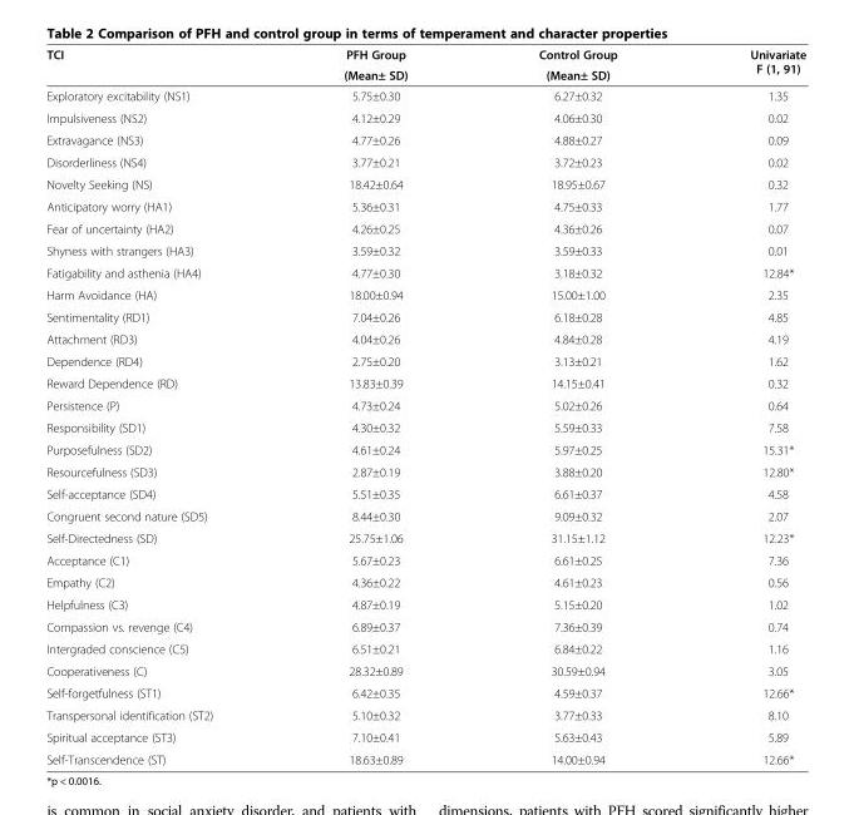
<table><thead><tr><td rowspan="2">TCI</td><td rowspan="2">PFH Group (Mean± SD)</td><td rowspan="2">Control Group (Mean± SD)</td><td rowspan="2">Univariate F (1, 91)</td></tr><tr></tr></thead><tbody><tr><td>Exploratory excitability (NS1)</td><td>5.75±0.30</td><td>6.27±0.32</td><td>1.35</td></tr><tr><td>Impulsiveness (NS2)</td><td>4.12±0.29</td><td>4.06±0.30</td><td>0.02</td></tr><tr><td>Extravagance (NS3)</td><td>4.77±0.26</td><td>4.88±0.27</td><td>0.09</td></tr><tr><td>Disorderliness (NS4)</td><td>3.77±0.21</td><td>3.72±0.23</td><td>0.02</td></tr><tr><td>Novelty Seeking (NS)</td><td>18.42±0.64</td><td>18.95±0.67</td><td>0.32</td></tr><tr><td>Anticipatory worry (HA1)</td><td>5.36±0.31</td><td>4.75±0.33</td><td>1.77</td></tr><tr><td>Fear of uncertainty (HA2)</td><td>4.26±0.25</td><td>4.36±0.26</td><td>0.07</td></tr><tr><td>Shyness with strangers (HA3)</td><td>3.59±0.32</td><td>3.59±0.33</td><td>0.01</td></tr><tr><td>Fatigability and asthenia (HA4)</td><td>4.77±0.30</td><td>3.18±0.32</td><td>12.84*</td></tr><tr><td>Harm Avoidance (HA)</td><td>18.00±0.94</td><td>15.00±1.00</td><td>2.35</td></tr><tr><td>Sentimentality (RD1)</td><td>7.04±0.26</td><td>6.18±0.28</td><td>4.85</td></tr><tr><td>Attachment (RD3)</td><td>4.04±0.26</td><td>4.84±0.28</td><td>4.19</td></tr><tr><td>Dependence (RD4)</td><td>2.75±0.20</td><td>3.13±0.21</td><td>1.62</td></tr><tr><td>Reward Dependence (RD)</td><td>13.83±0.39</td><td>14.15±0.41</td><td>0.32</td></tr><tr><td>Persistence (P)</td><td>4.73±0.24</td><td>5.02±0.26</td><td>0.64</td></tr><tr><td>Responsibility (SD1)</td><td>4.30±0.32</td><td>5.59±0.33</td><td>7.58</td></tr><tr><td>Purposefulness (SD2)</td><td>4.61±0.24</td><td>5.97±0.25</td><td>15.31*</td></tr><tr><td>Resourcefulness (SD3)</td><td>2.87±0.19</td><td>3.88±0.20</td><td>12.80*</td></tr><tr><td>Self-acceptance (SD4)</td><td>5.51±0.35</td><td>6.61±0.37</td><td>4.58</td></tr><tr><td>Congruent second nature (SD5)</td><td>8.44±0.30</td><td>9.09±0.32</td><td>2.07</td></tr><tr><td>Self-Directedness (SD)</td><td>25.75±1.06</td><td>31.15±1.12</td><td>12.23*</td></tr><tr><td>Acceptance (C1)</td><td>5.67±0.23</td><td>6.61±0.25</td><td>7.36</td></tr><tr><td>Empathy (C2)</td><td>4.36±0.22</td><td>4.61±0.23</td><td>0.56</td></tr><tr><td>Helpfulness (C3)</td><td>4.87±0.19</td><td>5.15±0.20</td><td>1.02</td></tr><tr><td>Compassion vs. revenge (C4)</td><td>6.89±0.37</td><td>7.36±0.39</td><td>0.74</td></tr><tr><td>Intergraded conscience (C5)</td><td>6.51±0.21</td><td>6.84±0.22</td><td>1.16</td></tr><tr><td>Cooperativeness (C)</td><td>28.32±0.89</td><td>30.59±0.94</td><td>3.05</td></tr><tr><td>Self-forgetfulness (ST1)</td><td>6.42±0.35</td><td>4.59±0.37</td><td>12.66*</td></tr><tr><td>Transpersonal identification (ST2)</td><td>5.10±0.32</td><td>3.77±0.33</td><td>8.10</td></tr><tr><td>Spiritual acceptance (ST3)</td><td>7.10±0.41</td><td>5.63±0.43</td><td>5.89</td></tr><tr><td>Self-Transcendence (ST)</td><td>18.63±0.89</td><td>14.00±0.94</td><td>12.66*</td></tr></tbody></table>